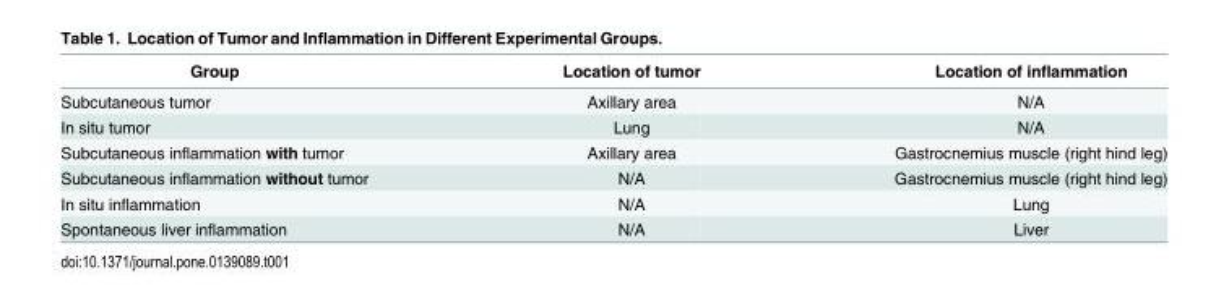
<table><thead><tr><td>Group</td><td>Location of tumor</td><td>Location of inflammation</td></tr></thead><tbody><tr><td>Subcutaneous tumor</td><td>Axillary area</td><td>N/A</td></tr><tr><td>In situ tumor</td><td>Lung</td><td>N/A</td></tr><tr><td>Subcutaneous inflammation with tumor</td><td>Axillary area</td><td>Gastrocnemius muscle (right hind leg)</td></tr><tr><td>Subcutaneous inflammation without tumor</td><td>N/A</td><td>Gastrocnemius muscle (right hind leg)</td></tr><tr><td>In situ inflammation</td><td>N/A</td><td>Lung</td></tr><tr><td>Spontaneous liver inflammation</td><td>N/A</td><td>Liver</td></tr></tbody></table>